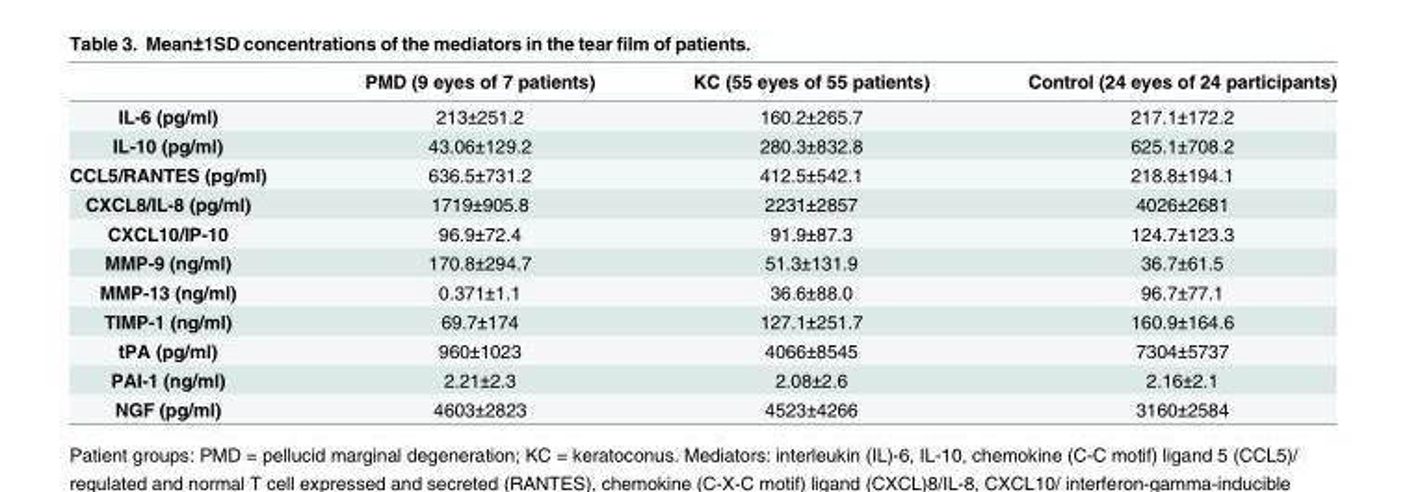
<table><thead><tr><td></td><td>PMD (9 eyes of 7 patients)</td><td>KC (55 eyes of 55 patients)</td><td>Control (24 eyes of 24 participants)</td></tr></thead><tbody><tr><td>IL-6 (pg/ml)</td><td>213±251.2</td><td>160.2±265.7</td><td>217.1±172.2</td></tr><tr><td>IL-10 (pg/ml)</td><td>43.06±129.2</td><td>280.3±832.8</td><td>625.1±708.2</td></tr><tr><td>CCL5/RANTES (pg/ml)</td><td>636.5±731.2</td><td>412.5±542.1</td><td>218.8±194.1</td></tr><tr><td>CXCL8/IL-8 (pg/ml)</td><td>1719±905.8</td><td>2231±2857</td><td>4026±2681</td></tr><tr><td>CXCL10/IP-10</td><td>96.9±72.4</td><td>91.9±87.3</td><td>124.7±123.3</td></tr><tr><td>MMP-9 (ng/ml)</td><td>170.8±294.7</td><td>51.3±131.9</td><td>36.7±61.5</td></tr><tr><td>MMP-13 (ng/ml)</td><td>0.371±1.1</td><td>36.6±88.0</td><td>96.7±77.1</td></tr><tr><td>TIMP-1 (ng/ml)</td><td>69.7±174</td><td>127.1±251.7</td><td>160.9±164.6</td></tr><tr><td>tPA (pg/ml)</td><td>960±1023</td><td>4066±8545</td><td>7304±5737</td></tr><tr><td>PAI-1 (ng/ml)</td><td>2.21±2.3</td><td>2.08±2.6</td><td>2.16±2.1</td></tr><tr><td>NGF (pg/ml)</td><td>4603±2823</td><td>4523±4266</td><td>3160±2584</td></tr></tbody></table>